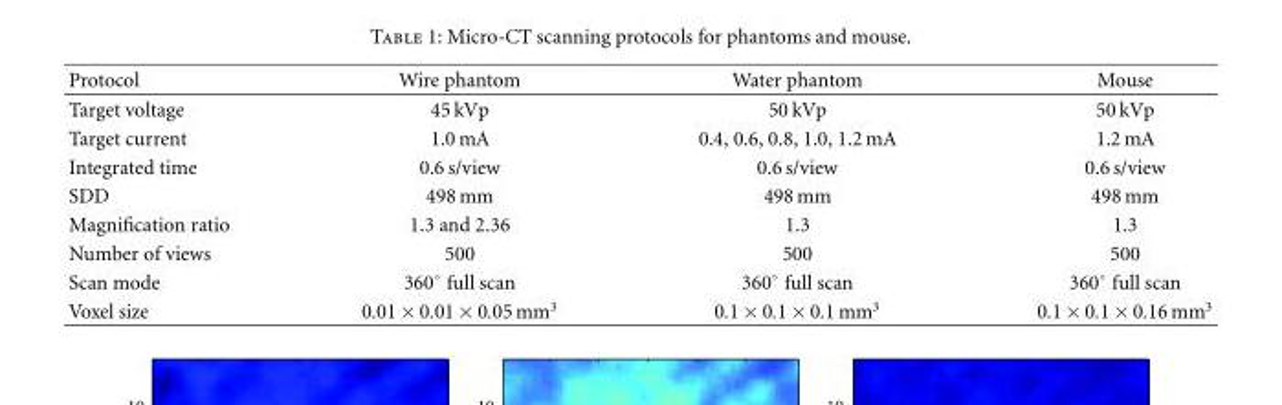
<table><thead><tr><td>Protocol</td><td>Wire phantom</td><td>Water phantom</td><td>Mouse</td></tr></thead><tbody><tr><td>Target voltage</td><td>45 kVp</td><td>50 kVp</td><td>50 kVp</td></tr><tr><td>Target current</td><td>1.0 mA</td><td>0.4, 0.6, 0.8, 1.0, 1.2 mA</td><td>1.2 mA</td></tr><tr><td>Integrated time</td><td>0.6 s/view</td><td>0.6 s/view</td><td>0.6 s/view</td></tr><tr><td>SDD</td><td>498 mm</td><td>498 mm</td><td>498 mm</td></tr><tr><td>Magnification ratio</td><td>1.3 and 2.36</td><td>1.3</td><td>1.3</td></tr><tr><td>Number of views</td><td>500</td><td>500</td><td>500</td></tr><tr><td>Scan mode</td><td>360◦ full scan</td><td>360◦ full scan</td><td>360◦ full scan</td></tr><tr><td>Voxel size</td><td>0.01 × 0.01 × 0.05 mm<sup>3</sup></td><td>0.1 × 0.1 × 0.1 mm<sup>3</sup></td><td>0.1 × 0.1 × 0.16 mm<sup>3</sup></td></tr></tbody></table>